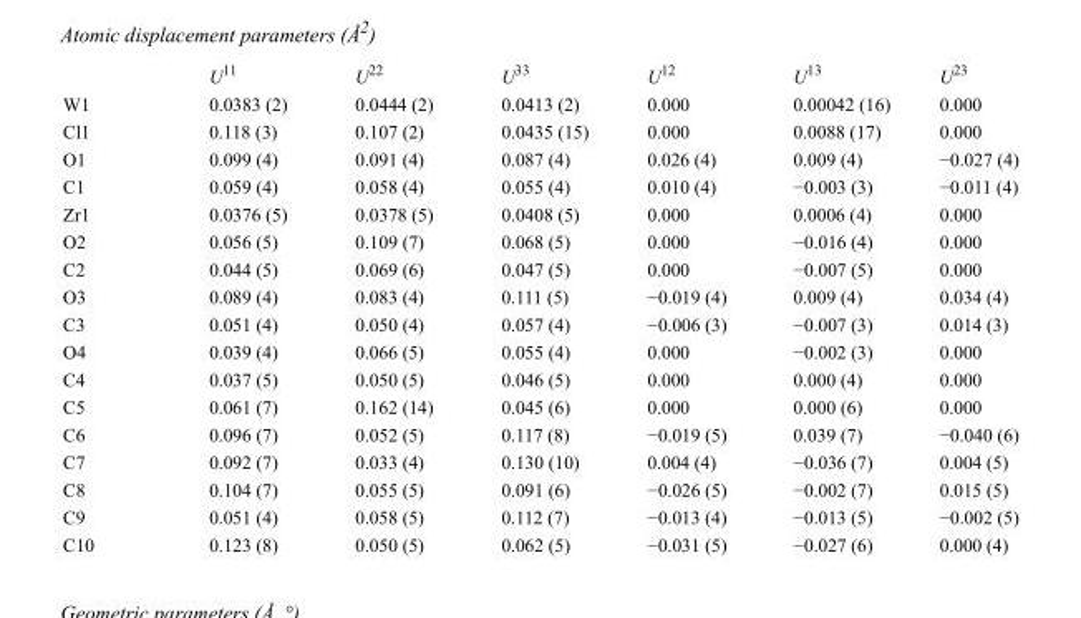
<table><thead><tr><td></td><td>U<sup>11</sup></td><td>U<sup>22</sup></td><td>U<sup>33</sup></td><td>U<sup>12</sup></td><td>U<sup>13</sup></td><td>U<sup>23</sup></td></tr></thead><tbody><tr><td>W1</td><td>0.0383 (2)</td><td>0.0444 (2)</td><td>0.0413 (2)</td><td>0.000</td><td>0.00042 (16)</td><td>0.000</td></tr><tr><td>Cl1</td><td>0.118 (3)</td><td>0.107 (2)</td><td>0.0435 (15)</td><td>0.000</td><td>0.0088 (17)</td><td>0.000</td></tr><tr><td>O1</td><td>0.099 (4)</td><td>0.091 (4)</td><td>0.087 (4)</td><td>0.026 (4)</td><td>0.009 (4)</td><td>−0.027 (4)</td></tr><tr><td>C1</td><td>0.059 (4)</td><td>0.058 (4)</td><td>0.055 (4)</td><td>0.010 (4)</td><td>−0.003 (3)</td><td>−0.011 (4)</td></tr><tr><td>Zr1</td><td>0.0376 (5)</td><td>0.0378 (5)</td><td>0.0408 (5)</td><td>0.000</td><td>0.0006 (4)</td><td>0.000</td></tr><tr><td>O2</td><td>0.056 (5)</td><td>0.109 (7)</td><td>0.068 (5)</td><td>0.000</td><td>−0.016 (4)</td><td>0.000</td></tr><tr><td>C2</td><td>0.044 (5)</td><td>0.069 (6)</td><td>0.047 (5)</td><td>0.000</td><td>−0.007 (5)</td><td>0.000</td></tr><tr><td>O3</td><td>0.089 (4)</td><td>0.083 (4)</td><td>0.111 (5)</td><td>−0.019 (4)</td><td>0.009 (4)</td><td>0.034 (4)</td></tr><tr><td>C3</td><td>0.051 (4)</td><td>0.050 (4)</td><td>0.057 (4)</td><td>−0.006 (3)</td><td>−0.007 (3)</td><td>0.014 (3)</td></tr><tr><td>O4</td><td>0.039 (4)</td><td>0.066 (5)</td><td>0.055 (4)</td><td>0.000</td><td>−0.002 (3)</td><td>0.000</td></tr><tr><td>C4</td><td>0.037 (5)</td><td>0.050 (5)</td><td>0.046 (5)</td><td>0.000</td><td>0.000 (4)</td><td>0.000</td></tr><tr><td>C5</td><td>0.061 (7)</td><td>0.162 (14)</td><td>0.045 (6)</td><td>0.000</td><td>0.000 (6)</td><td>0.000</td></tr><tr><td>C6</td><td>0.096 (7)</td><td>0.052 (5)</td><td>0.117 (8)</td><td>−0.019 (5)</td><td>0.039 (7)</td><td>−0.040 (6)</td></tr><tr><td>C7</td><td>0.092 (7)</td><td>0.033 (4)</td><td>0.130 (10)</td><td>0.004 (4)</td><td>−0.036 (7)</td><td>0.004 (5)</td></tr><tr><td>C8</td><td>0.104 (7)</td><td>0.055 (5)</td><td>0.091 (6)</td><td>−0.026 (5)</td><td>−0.002 (7)</td><td>0.015 (5)</td></tr><tr><td>C9</td><td>0.051 (4)</td><td>0.058 (5)</td><td>0.112 (7)</td><td>−0.013 (4)</td><td>−0.013 (5)</td><td>−0.002 (5)</td></tr><tr><td>C10</td><td>0.123 (8)</td><td>0.050 (5)</td><td>0.062 (5)</td><td>−0.031 (5)</td><td>−0.027 (6)</td><td>0.000 (4)</td></tr></tbody></table>